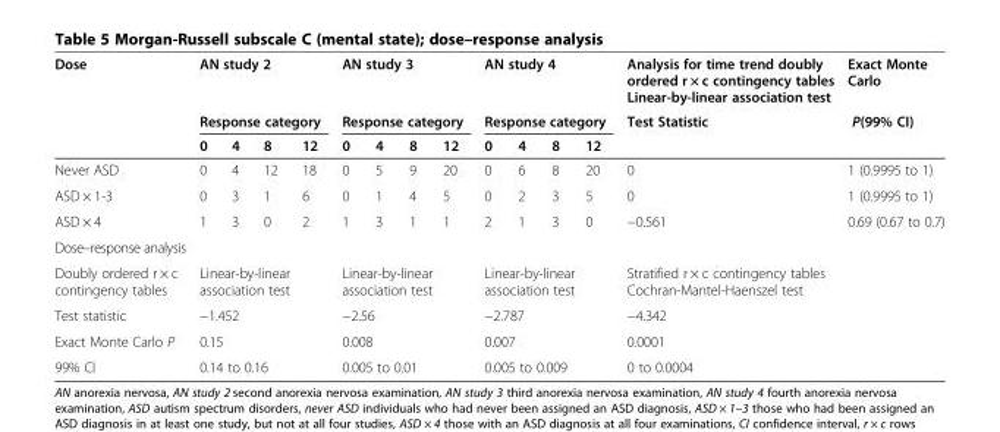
<table><thead><tr><td rowspan="3">Dose</td><td rowspan="2" colspan="4">AN study 2 Response category</td><td rowspan="2" colspan="4">AN study 3 Response category</td><td rowspan="2" colspan="4">AN study 4 Response category</td><td rowspan="3">Analysis for time trend doubly ordered r × c contingency tables Linear-by-linear association test Test Statistic</td><td rowspan="3">Exact Monte Carlo P(99% CI)</td></tr><tr></tr><tr><td>0</td><td>4</td><td>8</td><td>12</td><td>0</td><td>4</td><td>8</td><td>12</td><td>0</td><td>4</td><td>8</td><td>12</td></tr></thead><tbody><tr><td>Never ASD</td><td>0</td><td>4</td><td>12</td><td>18</td><td>0</td><td>5</td><td>9</td><td>20</td><td>0</td><td>6</td><td>8</td><td>20</td><td>0</td><td>1 (0.9995 to 1)</td></tr><tr><td>ASD × 1-3</td><td>0</td><td>3</td><td>1</td><td>6</td><td>0</td><td>1</td><td>4</td><td>5</td><td>0</td><td>2</td><td>3</td><td>5</td><td>0</td><td>1 (0.9995 to 1)</td></tr><tr><td>ASD × 4</td><td>1</td><td>3</td><td>0</td><td>2</td><td>1</td><td>3</td><td>1</td><td>1</td><td>2</td><td>1</td><td>3</td><td>0</td><td>−0.561</td><td>0.69 (0.67 to 0.7)</td></tr><tr><td colspan="15">Dose–response analysis</td></tr><tr><td>Doubly ordered r × c contingency tables</td><td colspan="4">Linear-by-linear association test</td><td colspan="4">Linear-by-linear association test</td><td colspan="4">Linear-by-linear association test</td><td>Stratified r × c contingency tables Cochran-Mantel-Haenszel test</td><td></td></tr><tr><td>Test statistic</td><td colspan="4">−1.452</td><td colspan="4">−2.56</td><td colspan="4">−2.787</td><td>−4.342</td><td></td></tr><tr><td>Exact Monte Carlo P</td><td colspan="4">0.15</td><td colspan="4">0.008</td><td colspan="4">0.007</td><td>0.0001</td><td></td></tr><tr><td>99% CI</td><td colspan="4">0.14 to 0.16</td><td colspan="4">0.005 to 0.01</td><td colspan="4">0.005 to 0.009</td><td>0 to 0.0004</td><td></td></tr></tbody></table>